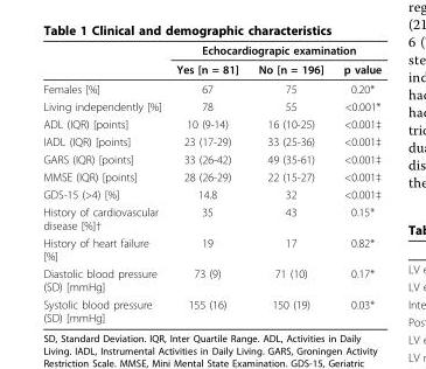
<table><thead><tr><td rowspan="2"></td><td colspan="3">Echocardiograpic examination</td></tr><tr><td>Yes [n = 81]</td><td>No [n = 196]</td><td>p value</td></tr></thead><tbody><tr><td>Females [%]</td><td>67</td><td>75</td><td>0.20*</td></tr><tr><td>Living independently [%]</td><td>78</td><td>55</td><td>&lt;0.001*</td></tr><tr><td>ADL (IQR) [points]</td><td>10 (9-14)</td><td>16 (10-25)</td><td>&lt;0.001‡</td></tr><tr><td>IADL (IQR) [points]</td><td>23 (17-29)</td><td>33 (25-36)</td><td>&lt;0.001‡</td></tr><tr><td>GARS (IQR) [points]</td><td>33 (26-42)</td><td>49 (35-61)</td><td>&lt;0.001‡</td></tr><tr><td>MMSE (IQR) [points]</td><td>28 (26-29)</td><td>22 (15-27)</td><td>&lt;0.001‡</td></tr><tr><td>GDS-15 (&gt;4) [%]</td><td>14.8</td><td>32</td><td>&lt;0.001‡</td></tr><tr><td>History of cardiovascular disease [%]†</td><td>35</td><td>43</td><td>0.15*</td></tr><tr><td>History of heart failure [%]</td><td>19</td><td>17</td><td>0.82*</td></tr><tr><td>Diastolic blood pressure (SD) [mmHg]</td><td>73 (9)</td><td>71 (10)</td><td>0.17*</td></tr><tr><td>Systolic blood pressure (SD) [mmHg]</td><td>155 (16)</td><td>150 (19)</td><td>0.03*</td></tr></tbody></table>